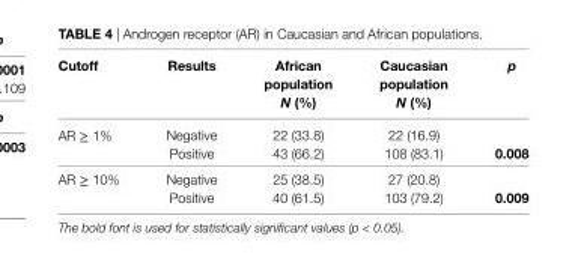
<table><thead><tr><td>cutoff</td><td>results</td><td>african population N (%)</td><td>caucasian population N (%)</td><td>p</td></tr></thead><tbody><tr><td rowspan="2">AR ≥ 1%</td><td>Negative</td><td>22 (33.8)</td><td>22 (16.9)</td><td></td></tr><tr><td>Positive</td><td>43 (66.2)</td><td>108 (83.1)</td><td>0.008</td></tr><tr><td rowspan="2">AR ≥ 10%</td><td>Negative</td><td>25 (38.5)</td><td>27 (20.8)</td><td></td></tr><tr><td>Positive</td><td>40 (61.5)</td><td>103 (79.2)</td><td>0.009</td></tr></tbody></table>